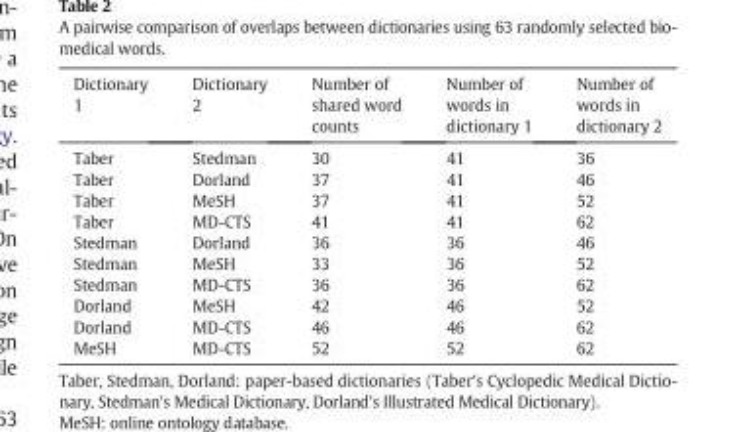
<table><thead><tr><td>Dictionary 1</td><td>Dictionary 2</td><td>Number of shared word counts</td><td>Number of words in dictionary 1</td><td>Number of words in dictionary 2</td></tr></thead><tbody><tr><td>Taber</td><td>Stedman</td><td>30</td><td>41</td><td>36</td></tr><tr><td>Taber</td><td>Dorland</td><td>37</td><td>41</td><td>46</td></tr><tr><td>Taber</td><td>MeSH</td><td>37</td><td>41</td><td>52</td></tr><tr><td>Taber</td><td>MD-CTS</td><td>41</td><td>41</td><td>62</td></tr><tr><td>Stedman</td><td>Dorland</td><td>36</td><td>36</td><td>46</td></tr><tr><td>Stedman</td><td>MeSH</td><td>33</td><td>36</td><td>52</td></tr><tr><td>Stedman</td><td>MD-CTS</td><td>36</td><td>36</td><td>62</td></tr><tr><td>Dorland</td><td>MeSH</td><td>42</td><td>46</td><td>52</td></tr><tr><td>Dorland</td><td>MD-CTS</td><td>46</td><td>46</td><td>62</td></tr><tr><td>MeSH</td><td>MD-CTS</td><td>52</td><td>52</td><td>62</td></tr></tbody></table>